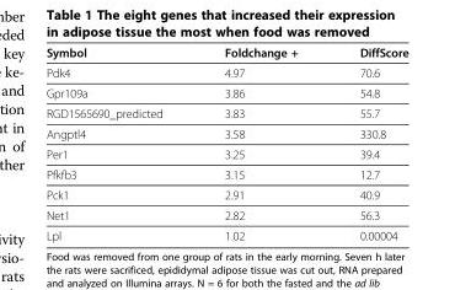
<table><thead><tr><td>Symbol</td><td>Foldchange +</td><td>DiffScore</td></tr></thead><tbody><tr><td>Pdk4</td><td>4.97</td><td>70.6</td></tr><tr><td>Gpr109a</td><td>3.86</td><td>54.8</td></tr><tr><td>RGD1565690_predicted</td><td>3.83</td><td>55.7</td></tr><tr><td>Angptl4</td><td>3.58</td><td>330.8</td></tr><tr><td>Per1</td><td>3.25</td><td>39.4</td></tr><tr><td>Pfkfb3</td><td>3.15</td><td>12.7</td></tr><tr><td>Pck1</td><td>2.91</td><td>40.9</td></tr><tr><td>Net1</td><td>2.82</td><td>56.3</td></tr><tr><td>Lpl</td><td>1.02</td><td>0.00004</td></tr></tbody></table>